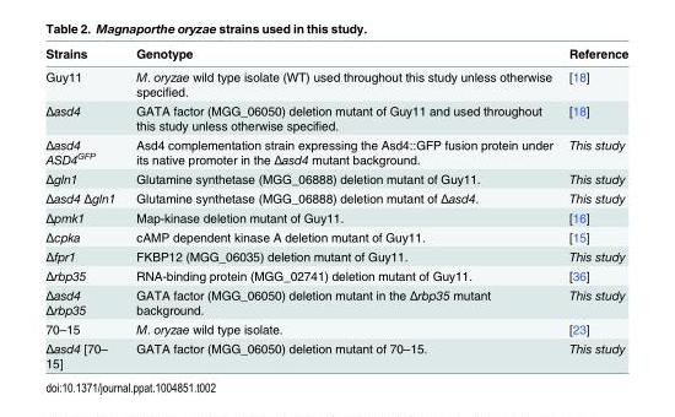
<table><thead><tr><td>Strains</td><td>Genotype</td><td>Reference</td></tr></thead><tbody><tr><td>Guy11</td><td>M. oryzae wild type isolate (WT) used throughout this study unless otherwise specified.</td><td>[18]</td></tr><tr><td>Δasd4</td><td>GATA factor (MGG_06050) deletion mutant of Guy11 and used throughout this study unless otherwise specified.</td><td>[18]</td></tr><tr><td>Δasd4 ASD4<sup>GFP</sup></td><td>Asd4 complementation strain expressing the Asd4::GFP fusion protein under its native promoter in the Δasd4 mutant background.</td><td>This study</td></tr><tr><td>Δgln1</td><td>Glutamine synthetase (MGG_06888) deletion mutant of Guy11.</td><td>This study</td></tr><tr><td>Δasd4 Δgln1</td><td>Glutamine synthetase (MGG_06888) deletion mutant of Δasd4.</td><td>This study</td></tr><tr><td>Δpmk1</td><td>Map-kinase deletion mutant of Guy11.</td><td>[16]</td></tr><tr><td>Δcpka</td><td>cAMP dependent kinase A deletion mutant of Guy11.</td><td>[15]</td></tr><tr><td>Δfpr1</td><td>FKBP12 (MGG_06035) deletion mutant of Guy11.</td><td>This study</td></tr><tr><td>Δrbp35</td><td>RNA-binding protein (MGG_02741) deletion mutant of Guy11.</td><td>[36]</td></tr><tr><td>Δasd4 Δrbp35</td><td>GATA factor (MGG_06050) deletion mutant in the Δrbp35 mutant background.</td><td>This study</td></tr><tr><td>70–15</td><td>M. oryzae wild type isolate.</td><td>[23]</td></tr><tr><td>Δasd4 [70– 15]</td><td>GATA factor (MGG_06050) deletion mutant of 70–15.</td><td>This study</td></tr></tbody></table>